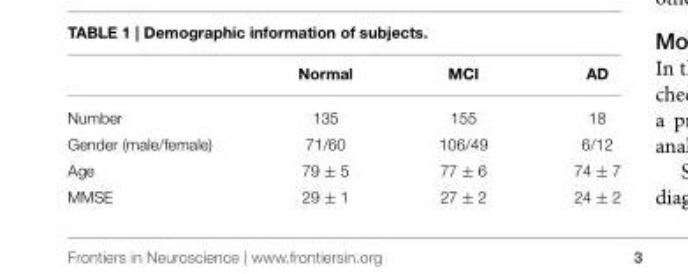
<table><thead><tr><td></td><td>Normal</td><td>MCI</td><td>AD</td></tr></thead><tbody><tr><td>Number</td><td>135</td><td>155</td><td>18</td></tr><tr><td>Gender (male/female)</td><td>71/60</td><td>106/49</td><td>6/12</td></tr><tr><td>Age</td><td>79 ± 5</td><td>77 ± 6</td><td>74 ± 7</td></tr><tr><td>MMSE</td><td>29 ± 1</td><td>27 ± 2</td><td>24 ± 2</td></tr></tbody></table>